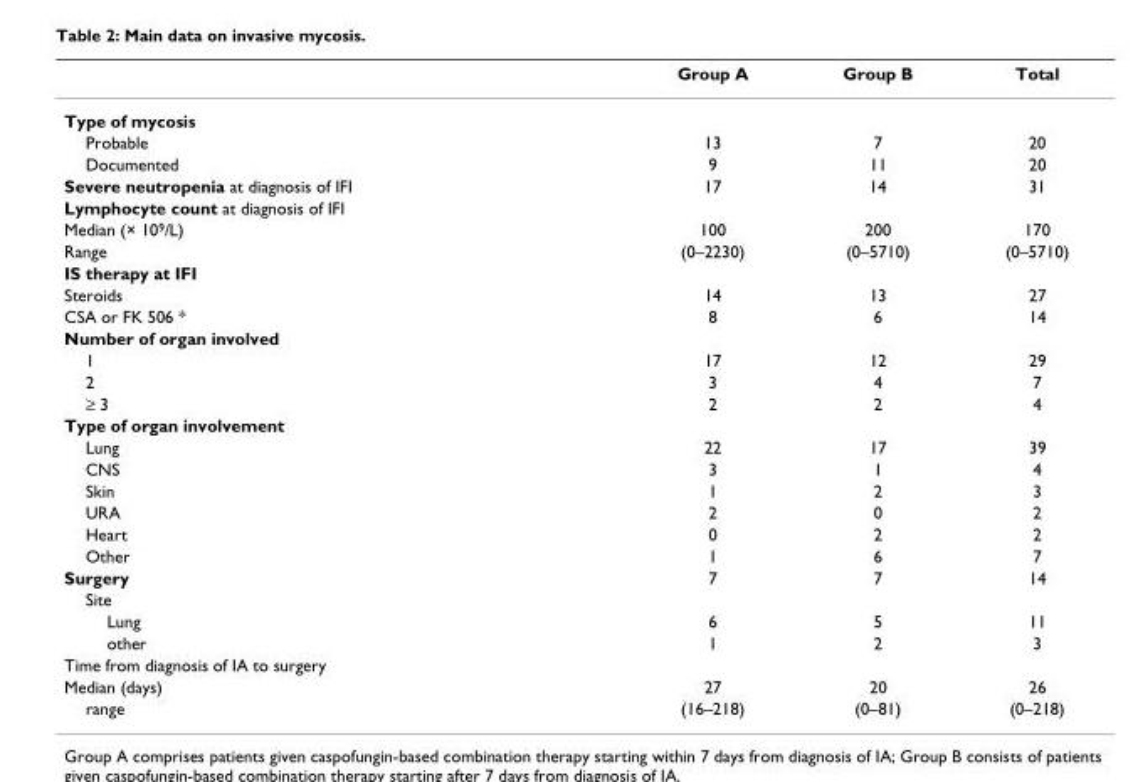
<table><thead><tr><td></td><td>Group A</td><td>Group B</td><td>Total</td></tr></thead><tbody><tr><td colspan="4">Type of mycosis</td></tr><tr><td>Probable</td><td>13</td><td>7</td><td>20</td></tr><tr><td>Documented</td><td>9</td><td>11</td><td>20</td></tr><tr><td>Severe neutropenia at diagnosis of IFI</td><td>17</td><td>14</td><td>31</td></tr><tr><td colspan="4">Lymphocyte count at diagnosis of IFI</td></tr><tr><td>Median (× 10<sup>9</sup>/L)</td><td>100</td><td>200</td><td>170</td></tr><tr><td>Range</td><td>(0–2230)</td><td>(0–5710)</td><td>(0–5710)</td></tr><tr><td colspan="4">IS therapy at IFI</td></tr><tr><td>Steroids</td><td>14</td><td>13</td><td>27</td></tr><tr><td>CSA or FK 506 *</td><td>8</td><td>6</td><td>14</td></tr><tr><td colspan="4">Number of organ involved</td></tr><tr><td>1</td><td>17</td><td>12</td><td>29</td></tr><tr><td>2</td><td>3</td><td>4</td><td>7</td></tr><tr><td>≥ 3</td><td>2</td><td>2</td><td>4</td></tr><tr><td colspan="4">Type of organ involvement</td></tr><tr><td>Lung</td><td>22</td><td>17</td><td>39</td></tr><tr><td>CNS</td><td>3</td><td>1</td><td>4</td></tr><tr><td>Skin</td><td>1</td><td>2</td><td>3</td></tr><tr><td>URA</td><td>2</td><td>0</td><td>2</td></tr><tr><td>Heart</td><td>0</td><td>2</td><td>2</td></tr><tr><td>Other</td><td>1</td><td>6</td><td>7</td></tr><tr><td>Surgery</td><td>7</td><td>7</td><td>14</td></tr><tr><td colspan="4">Site</td></tr><tr><td>Lung</td><td>6</td><td>5</td><td>11</td></tr><tr><td>other</td><td>1</td><td>2</td><td>3</td></tr><tr><td colspan="4">Time from diagnosis of IA to surgery</td></tr><tr><td>Median (days)</td><td>27</td><td>20</td><td>26</td></tr><tr><td>range</td><td>(16–218)</td><td>(0–81)</td><td>(0–218)</td></tr></tbody></table>